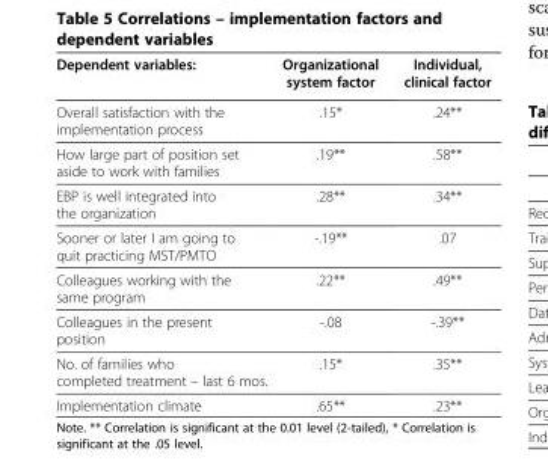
<table><thead><tr><td>Dependent variables:</td><td>Organizational system factor</td><td>Individual, clinical factor</td></tr></thead><tbody><tr><td>Overall satisfaction with the implementation process</td><td>.15*</td><td>.24**</td></tr><tr><td>How large part of position set aside to work with families</td><td>.19**</td><td>.58**</td></tr><tr><td>EBP is well integrated into the organization</td><td>.28**</td><td>.34**</td></tr><tr><td>Sooner or later I am going to quit practicing MST/PMTO</td><td>-.19**</td><td>.07</td></tr><tr><td>Colleagues working with the same program</td><td>.22**</td><td>.49**</td></tr><tr><td>Colleagues in the present position</td><td>-.08</td><td>-.39**</td></tr><tr><td>No. of families who completed treatment – last 6 mos.</td><td>.15*</td><td>.35**</td></tr><tr><td>Implementation climate</td><td>.65**</td><td>.23**</td></tr></tbody></table>